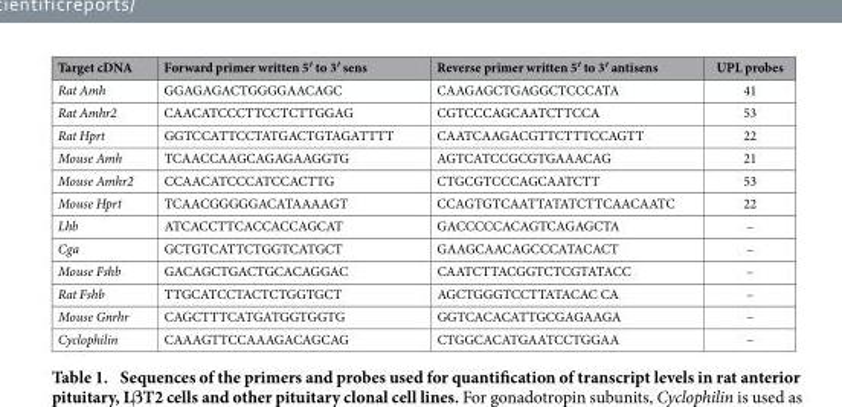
<table><thead><tr><td>Target cDNA</td><td>Forward primer written 5′ to 3′ sens</td><td>Reverse primer written 5′ to 3′ antisens</td><td>UPL probes</td></tr></thead><tbody><tr><td>Rat Amh</td><td>GGAGAGACTGGGGAACAGC</td><td>CAAGAGCTGAGGCTCCCATA</td><td>41</td></tr><tr><td>Rat Amhr2</td><td>CAACATCCCTTCCTCTTGGAG</td><td>CGTCCCAGCAATCTTCCA</td><td>53</td></tr><tr><td>Rat Hprt</td><td>GGTCCATTCCTATGACTGTAGATTTT</td><td>CAATCAAGACGTTCTTTCCAGTT</td><td>22</td></tr><tr><td>Mouse Amh</td><td>TCAACCAAGCAGAGAAGGTG</td><td>AGTCATCCGCGTGAAACAG</td><td>21</td></tr><tr><td>Mouse Amhr2</td><td>CCAACATCCCATCCACTTG</td><td>CTGCGTCCCAGCAATCTT</td><td>53</td></tr><tr><td>Mouse Hprt</td><td>TCAACGGGGGACATAAAAGT</td><td>CCAGTGTCAATTATATCTTCAACAATC</td><td>22</td></tr><tr><td>Lhb</td><td>ATCACCTTCACCACCAGCAT</td><td>GACCCCCACAGTCAGAGCTA</td><td>–</td></tr><tr><td>Cga</td><td>GCTGTCATTCTGGTCATGCT</td><td>GAAGCAACAGCCCATACACT</td><td>–</td></tr><tr><td>Mouse Fshb</td><td>GACAGCTGACTGCACAGGAC</td><td>CAATCTTACGGTCTCGTATACC</td><td>–</td></tr><tr><td>Rat Fshb</td><td>TTGCATCCTACTCTGGTGCT</td><td>AGCTGGGTCCTTATACAC CA</td><td>–</td></tr><tr><td>Mouse Gnrhr</td><td>CAGCTTTCATGATGGTGGTG</td><td>GGTCACACATTGCGAGAAGA</td><td>–</td></tr><tr><td>Cyclophilin</td><td>CAAAGTTCCAAAGACAGCAG</td><td>CTGGCACATGAATCCTGGAA</td><td>–</td></tr></tbody></table>